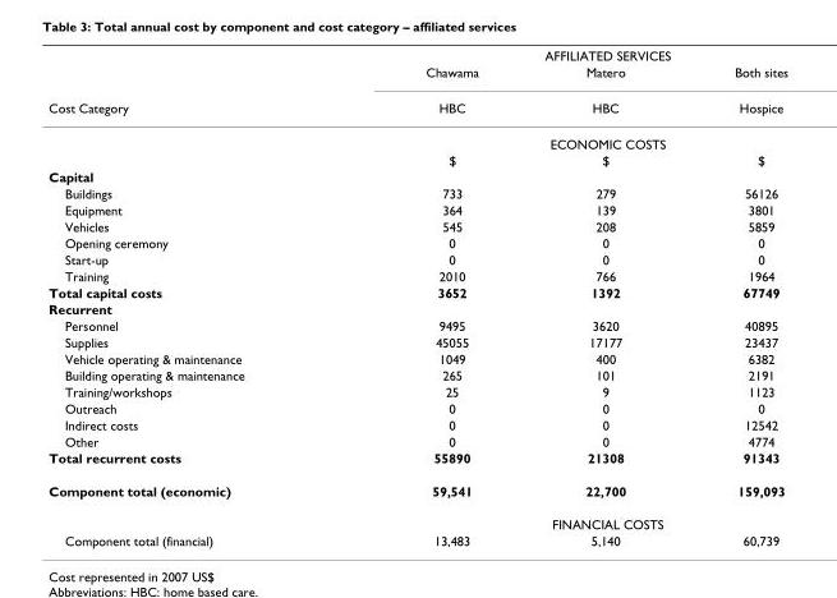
<table><thead><tr><td rowspan="3">Cost Category</td><td colspan="3">AFFILIATED SERVICES</td></tr><tr><td rowspan="2">Chawama HBC</td><td rowspan="2">Matero HBC</td><td rowspan="2">Both sites Hospice</td></tr><tr></tr></thead><tbody><tr><td></td><td colspan="3">ECONOMIC COSTS</td></tr><tr><td></td><td>$</td><td>$</td><td>$</td></tr><tr><td colspan="4">Capital</td></tr><tr><td>Buildings</td><td>733</td><td>279</td><td>56126</td></tr><tr><td>Equipment</td><td>364</td><td>139</td><td>3801</td></tr><tr><td>Vehicles</td><td>545</td><td>208</td><td>5859</td></tr><tr><td>Opening ceremony</td><td>0</td><td>0</td><td>0</td></tr><tr><td>Start-up</td><td>0</td><td>0</td><td>0</td></tr><tr><td>Training</td><td>2010</td><td>766</td><td>1964</td></tr><tr><td>Total capital costs</td><td>3652</td><td>1392</td><td>67749</td></tr><tr><td colspan="4">Recurrent</td></tr><tr><td>Personnel</td><td>9495</td><td>3620</td><td>40895</td></tr><tr><td>Supplies</td><td>45055</td><td>17177</td><td>23437</td></tr><tr><td>Vehicle operating &amp; maintenance</td><td>1049</td><td>400</td><td>6382</td></tr><tr><td>Building operating &amp; maintenance</td><td>265</td><td>101</td><td>2191</td></tr><tr><td>Training/workshops</td><td>25</td><td>9</td><td>1123</td></tr><tr><td>Outreach</td><td>0</td><td>0</td><td>0</td></tr><tr><td>Indirect costs</td><td>0</td><td>0</td><td>12542</td></tr><tr><td>Other</td><td>0</td><td>0</td><td>4774</td></tr><tr><td>Total recurrent costs</td><td>55890</td><td>21308</td><td>91343</td></tr><tr><td rowspan="2">Component total (economic)</td><td>59,541</td><td>22,700</td><td>159,093</td></tr><tr><td colspan="3">FINANCIAL COSTS</td></tr><tr><td>Component total (financial)</td><td>13,483</td><td>5,140</td><td>60,739</td></tr></tbody></table>